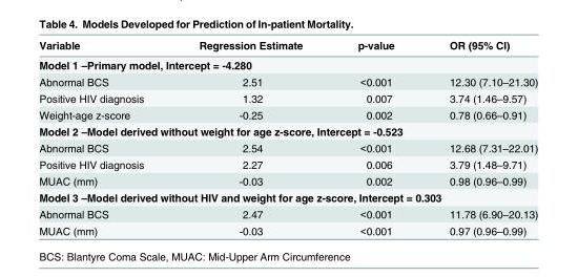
<table><thead><tr><td>Variable</td><td>Regression Estimate</td><td>p-value</td><td>OR (95% CI)</td></tr></thead><tbody><tr><td colspan="4">Model 1 –Primary model, Intercept = -4.280</td></tr><tr><td>Abnormal BCS</td><td>2.51</td><td>&lt;0.001</td><td>12.30 (7.10–21.30)</td></tr><tr><td>Positive HIV diagnosis</td><td>1.32</td><td>0.007</td><td>3.74 (1.46–9.57)</td></tr><tr><td>Weight-age z-score</td><td>-0.25</td><td>0.002</td><td>0.78 (0.66–0.91)</td></tr><tr><td colspan="4">Model 2 –Model derived without weight for age z-score, Intercept = -0.523</td></tr><tr><td>Abnormal BCS</td><td>2.54</td><td>&lt;0.001</td><td>12.68 (7.31–22.01)</td></tr><tr><td>Positive HIV diagnosis</td><td>2.27</td><td>0.006</td><td>3.79 (1.48–9.71)</td></tr><tr><td>MUAC (mm)</td><td>-0.03</td><td>0.002</td><td>0.98 (0.96–0.99)</td></tr><tr><td colspan="4">Model 3 –Model derived without HIV and weight for age z-score, Intercept = 0.303</td></tr><tr><td>Abnormal BCS</td><td>2.47</td><td>&lt;0.001</td><td>11.78 (6.90–20.13)</td></tr><tr><td>MUAC (mm)</td><td>-0.03</td><td>&lt;0.001</td><td>0.97 (0.96–0.99)</td></tr></tbody></table>